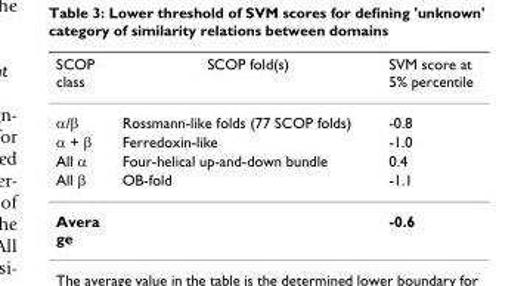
<table><thead><tr><td>SCOP class</td><td>SCOP fold(s)</td><td>SVM score at 5% percentile</td></tr></thead><tbody><tr><td>α/β</td><td>Rossmann-like folds (77 SCOP folds)</td><td>-0.8</td></tr><tr><td>α + β</td><td>Ferredoxin-like</td><td>-1.0</td></tr><tr><td>All α</td><td>Four-helical up-and-down bundle</td><td>0.4</td></tr><tr><td>All β</td><td>OB-fold</td><td>-1.1</td></tr><tr><td>Avera</td><td></td><td>-0.6</td></tr></tbody></table>